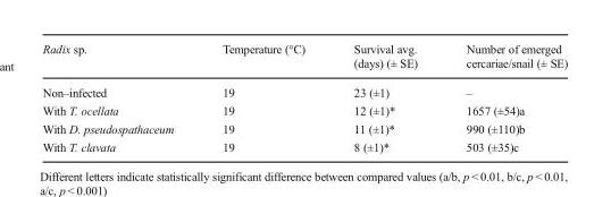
<table><thead><tr><td>Radix sp.</td><td>Temperature (°C)</td><td>Survival avg. (days) (± SE)</td><td>Number of emerged cercariae/snail (± SE)</td></tr></thead><tbody><tr><td>Non–infected</td><td>19</td><td>23 (±1)</td><td>–</td></tr><tr><td>With T. ocellata</td><td>19</td><td>12 (±1)*</td><td>1657 (±54)a</td></tr><tr><td>With D. pseudospathaceum</td><td>19</td><td>11 (±1)*</td><td>990 (±110)b</td></tr><tr><td>With T. clavata</td><td>19</td><td>8 (±1)*</td><td>503 (±35)c</td></tr></tbody></table>